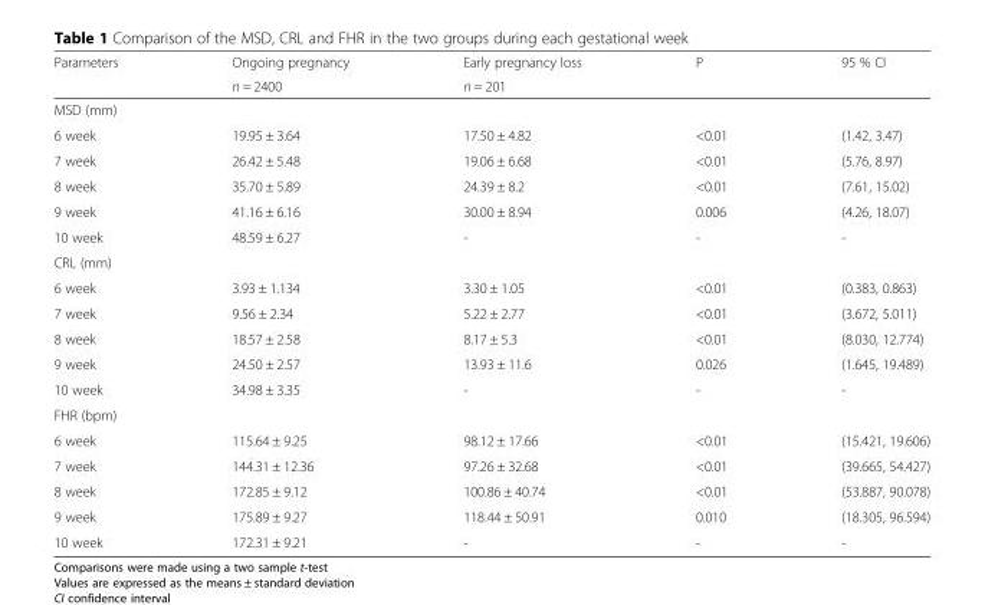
<table><thead><tr><td rowspan="2">Parameters</td><td rowspan="2">Ongoing pregnancy n = 2400</td><td rowspan="2">Early pregnancy loss n = 201</td><td rowspan="2">P</td><td rowspan="2">95 % CI</td></tr><tr></tr></thead><tbody><tr><td colspan="5">MSD (mm)</td></tr><tr><td>6 week</td><td>19.95 ± 3.64</td><td>17.50 ± 4.82</td><td>&lt;0.01</td><td>(1.42, 3.47)</td></tr><tr><td>7 week</td><td>26.42 ± 5.48</td><td>19.06 ± 6.68</td><td>&lt;0.01</td><td>(5.76, 8.97)</td></tr><tr><td>8 week</td><td>35.70 ± 5.89</td><td>24.39 ± 8.2</td><td>&lt;0.01</td><td>(7.61, 15.02)</td></tr><tr><td>9 week</td><td>41.16 ± 6.16</td><td>30.00 ± 8.94</td><td>0.006</td><td>(4.26, 18.07)</td></tr><tr><td>10 week</td><td>48.59 ± 6.27</td><td>-</td><td>-</td><td>-</td></tr><tr><td colspan="5">CRL (mm)</td></tr><tr><td>6 week</td><td>3.93 ± 1.134</td><td>3.30 ± 1.05</td><td>&lt;0.01</td><td>(0.383, 0.863)</td></tr><tr><td>7 week</td><td>9.56 ± 2.34</td><td>5.22 ± 2.77</td><td>&lt;0.01</td><td>(3.672, 5.011)</td></tr><tr><td>8 week</td><td>18.57 ± 2.58</td><td>8.17 ± 5.3</td><td>&lt;0.01</td><td>(8.030, 12.774)</td></tr><tr><td>9 week</td><td>24.50 ± 2.57</td><td>13.93 ± 11.6</td><td>0.026</td><td>(1.645, 19.489)</td></tr><tr><td>10 week</td><td>34.98 ± 3.35</td><td>-</td><td>-</td><td>-</td></tr><tr><td colspan="5">FHR (bpm)</td></tr><tr><td>6 week</td><td>115.64 ± 9.25</td><td>98.12 ± 17.66</td><td>&lt;0.01</td><td>(15.421, 19.606)</td></tr><tr><td>7 week</td><td>144.31 ± 12.36</td><td>97.26 ± 32.68</td><td>&lt;0.01</td><td>(39.665, 54.427)</td></tr><tr><td>8 week</td><td>172.85 ± 9.12</td><td>100.86 ± 40.74</td><td>&lt;0.01</td><td>(53.887, 90.078)</td></tr><tr><td>9 week</td><td>175.89 ± 9.27</td><td>118.44 ± 50.91</td><td>0.010</td><td>(18.305, 96.594)</td></tr><tr><td>10 week</td><td>172.31 ± 9.21</td><td>-</td><td>-</td><td>-</td></tr></tbody></table>